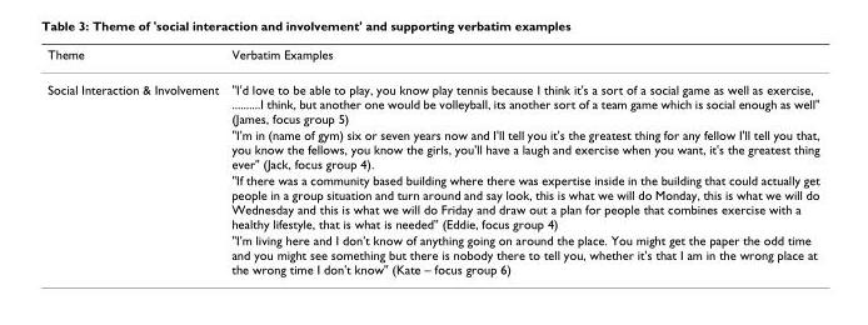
<table><thead><tr><td>Theme</td><td>Verbatim Examples</td></tr></thead><tbody><tr><td rowspan="4">Social Interaction &amp; Involvement</td><td>&quot;I&#x27;d love to be able to play, you know play tennis because I think it&#x27;s a sort of a social game as well as exercise, ..........I think, but another one would be volleyball, its another sort of a team game which is social enough as well&quot; (James, focus group 5)</td></tr><tr><td>&quot;I&#x27;m in (name of gym) six or seven years now and I&#x27;ll tell you it&#x27;s the greatest thing for any fellow I&#x27;ll tell you that, you know the fellows, you know the girls, you&#x27;ll have a laugh and exercise when you want, it&#x27;s the greatest thing ever&quot; (Jack, focus group 4).</td></tr><tr><td>&quot;If there was a community based building where there was expertise inside in the building that could actually get people in a group situation and turn around and say look, this is what we will do Monday, this is what we will do Wednesday and this is what we will do Friday and draw out a plan for people that combines exercise with a healthy lifestyle, that is what is needed&quot; (Eddie, focus group 4)</td></tr><tr><td>&quot;I&#x27;m living here and I don&#x27;t know of anything going on around the place. You might get the paper the odd time and you might see something but there is nobody there to tell you, whether it&#x27;s that I am in the wrong place at the wrong time I don&#x27;t know&quot; (Kate – focus group 6)</td></tr></tbody></table>